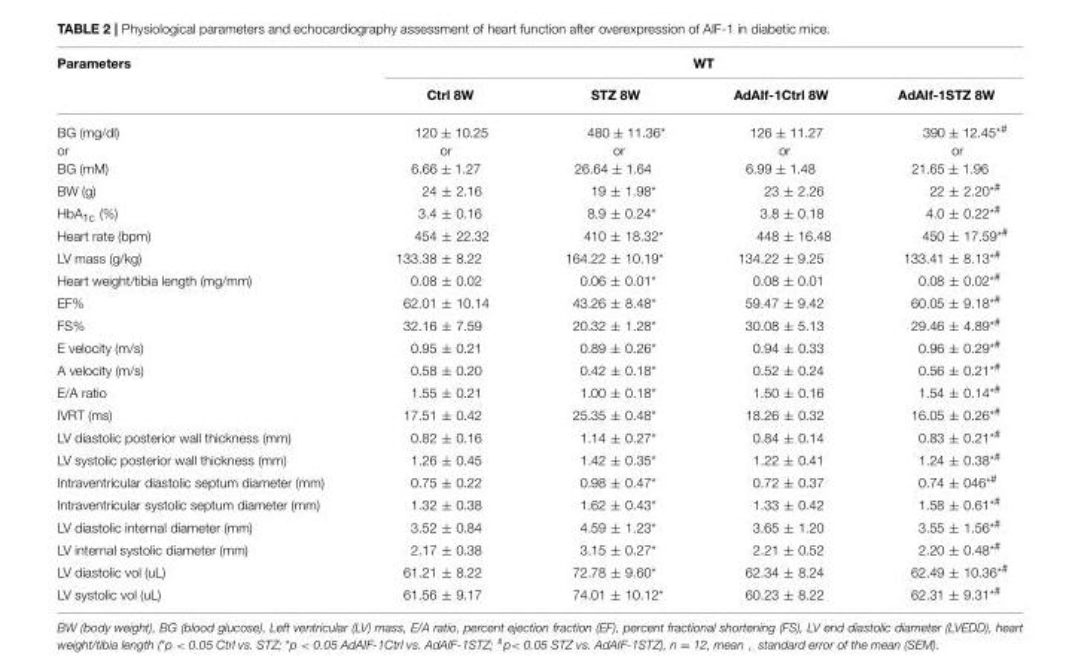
<table><thead><tr><td rowspan="2">Parameters</td><td colspan="4">WT</td></tr><tr><td>Ctrl 8W</td><td>STZ 8W</td><td>AdAIf-1Ctrl 8W</td><td>AdAIf-1STZ 8W</td></tr></thead><tbody><tr><td>BG (mg/dl) or BG (mM)</td><td>120 ± 10.25 or 6.66 ± 1.27</td><td>480 ± 11.36* or 26.64 ± 1.64</td><td>126 ± 11.27 or 6.99 ± 1.48</td><td>390 ± 12.45*# or 21.65 ± 1.96</td></tr><tr><td>BW (g)</td><td>24 ± 2.16</td><td>19 ± 1.98*</td><td>23 ± 2.26</td><td>22 ± 2.20*#</td></tr><tr><td>HbA1c (%)</td><td>3.4 ± 0.16</td><td>8.9 ± 0.24*</td><td>3.8 ± 0.18</td><td>4.0 ± 0.22*#</td></tr><tr><td>Heart rate (bpm)</td><td>454 ± 22.32</td><td>410 ± 18.32*</td><td>448 ± 16.48</td><td>450 ± 17.59*#</td></tr><tr><td>LV mass (g/kg)</td><td>133.38 ± 8.22</td><td>164.22 ± 10.19*</td><td>134.22 ± 9.25</td><td>133.41 ± 8.13*#</td></tr><tr><td>Heart weight/tibia length (mg/mm)</td><td>0.08 ± 0.02</td><td>0.06 ± 0.01*</td><td>0.08 ± 0.01</td><td>0.08 ± 0.02*#</td></tr><tr><td>EF%</td><td>62.01 ± 10.14</td><td>43.26 ± 8.48*</td><td>59.47 ± 9.42</td><td>60.05 ± 9.18*#</td></tr><tr><td>FS%</td><td>32.16 ± 7.59</td><td>20.32 ± 1.28*</td><td>30.08 ± 5.13</td><td>29.46 ± 4.89*#</td></tr><tr><td>E velocity (m/s)</td><td>0.95 ± 0.21</td><td>0.89 ± 0.26*</td><td>0.94 ± 0.33</td><td>0.96 ± 0.29*#</td></tr><tr><td>A velocity (m/s)</td><td>0.58 ± 0.20</td><td>0.42 ± 0.18*</td><td>0.52 ± 0.24</td><td>0.56 ± 0.21*#</td></tr><tr><td>E/A ratio</td><td>1.55 ± 0.21</td><td>1.00 ± 0.18*</td><td>1.50 ± 0.16</td><td>1.54 ± 0.14*#</td></tr><tr><td>IVRT (ms)</td><td>17.51 ± 0.42</td><td>25.35 ± 0.48*</td><td>18.26 ± 0.32</td><td>16.05 ± 0.26*#</td></tr><tr><td>LV diastolic posterior wall thickness (mm)</td><td>0.82 ± 0.16</td><td>1.14 ± 0.27*</td><td>0.84 ± 0.14</td><td>0.83 ± 0.21*#</td></tr><tr><td>LV systolic posterior wall thickness (mm)</td><td>1.26 ± 0.45</td><td>1.42 ± 0.35*</td><td>1.22 ± 0.41</td><td>1.24 ± 0.38*#</td></tr><tr><td>Intraventricular diastolic septum diameter (mm)</td><td>0.75 ± 0.22</td><td>0.98 ± 0.47*</td><td>0.72 ± 0.37</td><td>0.74 ± 046*#</td></tr><tr><td>Intraventricular systolic septum diameter (mm)</td><td>1.32 ± 0.38</td><td>1.62 ± 0.43*</td><td>1.33 ± 0.42</td><td>1.58 ± 0.61*#</td></tr><tr><td>LV diastolic internal diameter (mm)</td><td>3.52 ± 0.84</td><td>4.59 ± 1.23*</td><td>3.65 ± 1.20</td><td>3.55 ± 1.56*#</td></tr><tr><td>LV internal systolic diameter (mm)</td><td>2.17 ± 0.38</td><td>3.15 ± 0.27*</td><td>2.21 ± 0.52</td><td>2.20 ± 0.48*#</td></tr><tr><td>LV diastolic vol (uL)</td><td>61.21 ± 8.22</td><td>72.78 ± 9.60*</td><td>62.34 ± 8.24</td><td>62.49 ± 10.36*#</td></tr><tr><td>LV systolic vol (uL)</td><td>61.56 ± 9.17</td><td>74.01 ± 10.12*</td><td>60.23 ± 8.22</td><td>62.31 ± 9.31*#</td></tr></tbody></table>